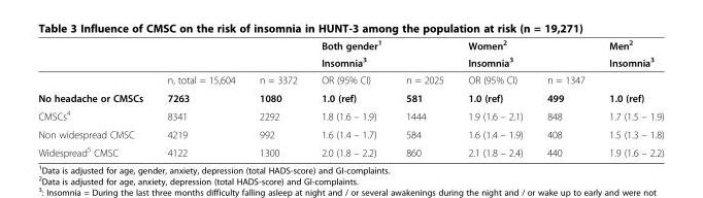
<table><thead><tr><td rowspan="2"></td><td rowspan="2"></td><td rowspan="2"></td><td rowspan="2">Both gender<sup>1</sup> Insomnia<sup>3</sup></td><td rowspan="2"></td><td rowspan="2">Women<sup>2</sup> Insomnia<sup>3</sup></td><td rowspan="2"></td><td rowspan="2">Men<sup>2</sup> Insomnia<sup>3</sup></td></tr><tr></tr></thead><tbody><tr><td></td><td>n, total = 15,604</td><td>n = 3372</td><td>OR (95% CI)</td><td>n = 2025</td><td>OR (95% CI)</td><td>n = 1347</td><td></td></tr><tr><td>No headache or CMSCs</td><td>7263</td><td>1080</td><td>1.0 (ref)</td><td>581</td><td>1.0 (ref)</td><td>499</td><td>1.0 (ref)</td></tr><tr><td>CMSCs<sup>4</sup></td><td>8341</td><td>2292</td><td>1.8 (1.6 – 1.9)</td><td>1444</td><td>1.9 (1.6 – 2.1)</td><td>848</td><td>1.7 (1.5 – 1.9)</td></tr><tr><td>Non widespread CMSC</td><td>4219</td><td>992</td><td>1.6 (1.4 – 1.7)</td><td>584</td><td>1.6 (1.4 – 1.9)</td><td>408</td><td>1.5 (1.3 – 1.8)</td></tr><tr><td>Widespread<sup>5</sup> CMSC</td><td>4122</td><td>1300</td><td>2.0 (1.8 – 2.2)</td><td>860</td><td>2.1 (1.8 – 2.4)</td><td>440</td><td>1.9 (1.6 – 2.2)</td></tr></tbody></table>